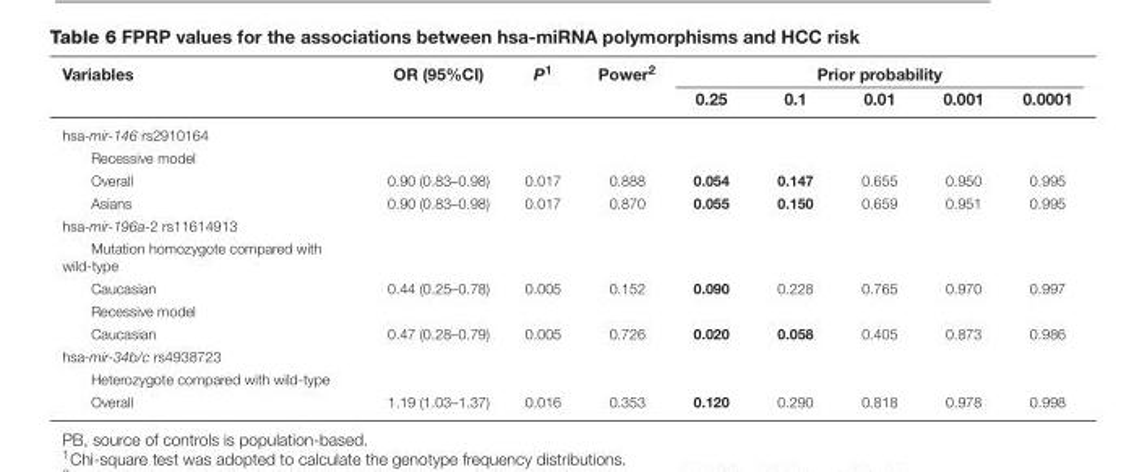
<table><thead><tr><td rowspan="2">Variables</td><td rowspan="2">OR (95%CI)</td><td rowspan="2">P<sup>1</sup></td><td rowspan="2">Power<sup>2</sup></td><td colspan="5">Prior probability</td></tr><tr><td>0.25</td><td>0.1</td><td>0.01</td><td>0.001</td><td>0.0001</td></tr></thead><tbody><tr><td colspan="9">hsa-mir-146 rs2910164</td></tr><tr><td colspan="9">Recessive model</td></tr><tr><td>Overall</td><td>0.90 (0.83–0.98)</td><td>0.017</td><td>0.888</td><td>0.054</td><td>0.147</td><td>0.655</td><td>0.950</td><td>0.995</td></tr><tr><td>Asians</td><td>0.90 (0.83–0.98)</td><td>0.017</td><td>0.870</td><td>0.055</td><td>0.150</td><td>0.659</td><td>0.951</td><td>0.995</td></tr><tr><td colspan="9">hsa-mir-196a-2 rs11614913</td></tr><tr><td colspan="9">Mutation homozygote compared with wild-type</td></tr><tr><td>Caucasian</td><td>0.44 (0.25–0.78)</td><td>0.005</td><td>0.152</td><td>0.090</td><td>0.228</td><td>0.765</td><td>0.970</td><td>0.997</td></tr><tr><td colspan="9">Recessive model</td></tr><tr><td>Caucasian</td><td>0.47 (0.28–0.79)</td><td>0.005</td><td>0.726</td><td>0.020</td><td>0.058</td><td>0.405</td><td>0.873</td><td>0.986</td></tr><tr><td colspan="9">hsa-mir-34b/c rs4938723</td></tr><tr><td colspan="9">Heterozygote compared with wild-type</td></tr><tr><td>Overall</td><td>1.19 (1.03–1.37)</td><td>0.016</td><td>0.353</td><td>0.120</td><td>0.290</td><td>0.818</td><td>0.978</td><td>0.998</td></tr></tbody></table>